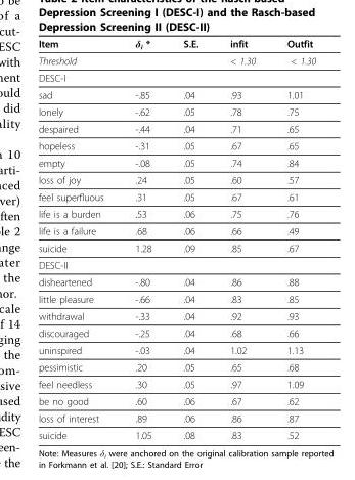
<table><thead><tr><td>Item</td><td>δ<sub>i</sub> *</td><td>S.E.</td><td>infit</td><td>Outfit</td></tr></thead><tbody><tr><td>Threshold</td><td></td><td></td><td>&lt; 1.30</td><td>&lt; 1.30</td></tr><tr><td colspan="5">DESC-I</td></tr><tr><td>sad</td><td>-.85</td><td>.04</td><td>.93</td><td>1.01</td></tr><tr><td>lonely</td><td>-.62</td><td>.05</td><td>.78</td><td>.75</td></tr><tr><td>despaired</td><td>-.44</td><td>.04</td><td>.71</td><td>.65</td></tr><tr><td>hopeless</td><td>-.31</td><td>.05</td><td>.67</td><td>.65</td></tr><tr><td>empty</td><td>-.08</td><td>.05</td><td>.74</td><td>.84</td></tr><tr><td>loss of joy</td><td>.24</td><td>.05</td><td>.60</td><td>.57</td></tr><tr><td>feel superfluous</td><td>.31</td><td>.05</td><td>.67</td><td>.61</td></tr><tr><td>life is a burden</td><td>.53</td><td>.06</td><td>.75</td><td>.76</td></tr><tr><td>life is a failure</td><td>.68</td><td>.06</td><td>.66</td><td>.49</td></tr><tr><td>suicide</td><td>1.28</td><td>.09</td><td>.85</td><td>.67</td></tr><tr><td colspan="5">DESC-II</td></tr><tr><td>disheartened</td><td>-.80</td><td>.04</td><td>.86</td><td>.88</td></tr><tr><td>little pleasure</td><td>-.66</td><td>.04</td><td>.83</td><td>.85</td></tr><tr><td>withdrawal</td><td>-.33</td><td>.04</td><td>.92</td><td>.93</td></tr><tr><td>discouraged</td><td>-.25</td><td>.04</td><td>.68</td><td>.66</td></tr><tr><td>uninspired</td><td>-.03</td><td>.04</td><td>1.02</td><td>1.13</td></tr><tr><td>pessimistic</td><td>.20</td><td>.05</td><td>.65</td><td>.68</td></tr><tr><td>feel needless</td><td>.30</td><td>.05</td><td>.97</td><td>1.09</td></tr><tr><td>be no good</td><td>.60</td><td>.06</td><td>.67</td><td>.62</td></tr><tr><td>loss of interest</td><td>.89</td><td>.06</td><td>.86</td><td>.87</td></tr><tr><td>suicide</td><td>1.05</td><td>.08</td><td>.83</td><td>.52</td></tr></tbody></table>